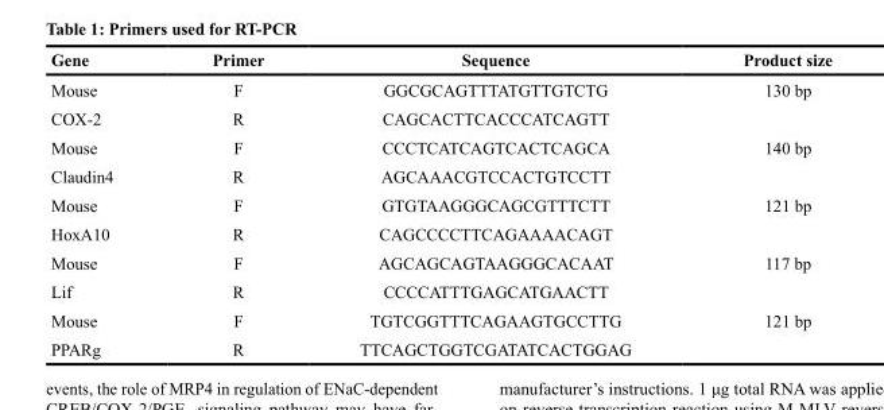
<table><thead><tr><td>Gene</td><td>Primer</td><td>Sequence</td><td>Product size</td></tr></thead><tbody><tr><td>Mouse</td><td>F</td><td>GGCGCAGTTTATGTTGTCTG</td><td>130 bp</td></tr><tr><td>COX-2</td><td>R</td><td>CAGCACTTCACCCATCAGTT</td><td></td></tr><tr><td>Mouse</td><td>F</td><td>CCCTCATCAGTCACTCAGCA</td><td>140 bp</td></tr><tr><td>Claudin4</td><td>R</td><td>AGCAAACGTCCACTGTCCTT</td><td></td></tr><tr><td>Mouse</td><td>F</td><td>GTGTAAGGGCAGCGTTTCTT</td><td>121 bp</td></tr><tr><td>HoxA10</td><td>R</td><td>CAGCCCCTTCAGAAAACAGT</td><td></td></tr><tr><td>Mouse</td><td>F</td><td>AGCAGCAGTAAGGGCACAAT</td><td>117 bp</td></tr><tr><td>Lif</td><td>R</td><td>CCCCATTTGAGCATGAACTT</td><td></td></tr><tr><td>Mouse</td><td>F</td><td>TGTCGGTTTCAGAAGTGCCTTG</td><td>121 bp</td></tr><tr><td>PPARg</td><td>R</td><td>TTCAGCTGGTCGATATCACTGGAG</td><td></td></tr></tbody></table>